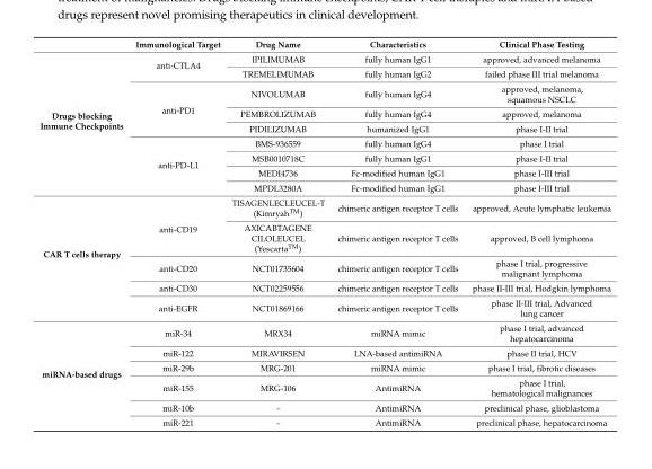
<table><thead><tr><td></td><td>Immunological Target</td><td>Drug Name</td><td>Characteristics</td><td>Clinical Phase Testing</td></tr></thead><tbody><tr><td rowspan="9">Drugs blocking Immune Checkpoints</td><td rowspan="2">anti-CTLA4</td><td>IPILIMUMAB</td><td>fully human IgG1</td><td>approved, advanced melanoma</td></tr><tr><td>TREMELIMUMAB</td><td>fully human IgG2</td><td>failed phase III trial melanoma</td></tr><tr><td rowspan="3">anti-PD1</td><td>NIVOLUMAB</td><td>fully human IgG4</td><td>approved, melanoma, squamous NSCLC</td></tr><tr><td>PEMBROLIZUMAB</td><td>fully human IgG4</td><td>approved, melanoma</td></tr><tr><td>PIDILIZUMAB</td><td>humanized IgG1</td><td>phase I-II trial</td></tr><tr><td rowspan="4">anti-PD-L1</td><td>BMS-936559</td><td>fully human IgG4</td><td>phase I trial</td></tr><tr><td>MSB0010718C</td><td>fully human IgG1</td><td>phase I-II trial</td></tr><tr><td>MEDI4736</td><td>Fc-modified human IgG1</td><td>phase I-III trial</td></tr><tr><td>MPDL3280A</td><td>Fc-modified human IgG1</td><td>phase I-III trial</td></tr><tr><td rowspan="5">CAR T cells therapy</td><td rowspan="2">anti-CD19</td><td>TISAGENLECLEUCEL-T (Kimryah<sup>TM</sup>)</td><td>chimeric antigen receptor T cells</td><td>approved, Acute lymphatic leukemia</td></tr><tr><td>AXICABTAGENE CILOLEUCEL (Yescarta<sup>TM</sup>)</td><td>chimeric antigen receptor T cells</td><td>approved, B cell lymphoma</td></tr><tr><td>anti-CD20</td><td>NCT01735604</td><td>chimeric antigen receptor T cells</td><td>phase I trial, progressive malignant lymphoma</td></tr><tr><td>anti-CD30</td><td>NCT02259556</td><td>chimeric antigen receptor T cells</td><td>phase II-III trial, Hodgkin lymphoma</td></tr><tr><td>anti-EGFR</td><td>NCT01869166</td><td>chimeric antigen receptor T cells</td><td>phase II-III trial, Advanced lung cancer</td></tr><tr><td rowspan="6">miRNA-based drugs</td><td>miR-34</td><td>MRX34</td><td>miRNA mimic</td><td>phase I trial, advanced hepatocarcinoma</td></tr><tr><td>miR-122</td><td>MIRAVIRSEN</td><td>LNA-based antimiRNA</td><td>phase II trial, HCV</td></tr><tr><td>miR-29b</td><td>MRG-201</td><td>miRNA mimic</td><td>phase I trial, fibrotic diseases</td></tr><tr><td>miR-155</td><td>MRG-106</td><td>AntimiRNA</td><td>phase I trial, hematological malignances</td></tr><tr><td>miR-10b</td><td>-</td><td>AntimiRNA</td><td>preclinical phase, glioblastoma</td></tr><tr><td>miR-221</td><td>-</td><td>AntimiRNA</td><td>preclinical phase, hepatocarcinoma</td></tr></tbody></table>